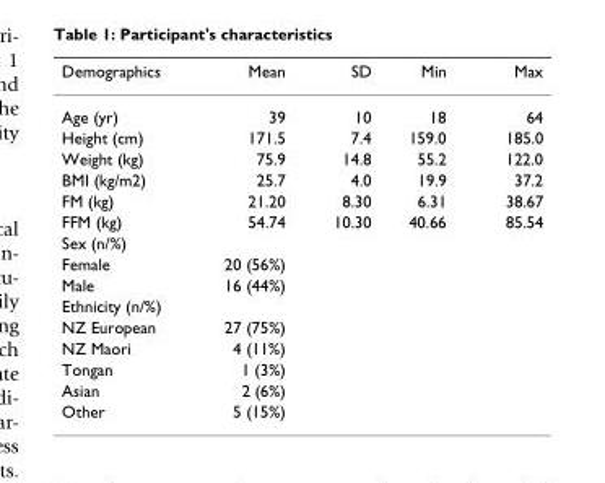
<table><thead><tr><td>Demographics</td><td>Mean</td><td>SD</td><td>Min</td><td>Max</td></tr></thead><tbody><tr><td>Age (yr)</td><td>39</td><td>10</td><td>18</td><td>64</td></tr><tr><td>Height (cm)</td><td>171.5</td><td>7.4</td><td>159.0</td><td>185.0</td></tr><tr><td>Weight (kg)</td><td>75.9</td><td>14.8</td><td>55.2</td><td>122.0</td></tr><tr><td>BMI (kg/m2)</td><td>25.7</td><td>4.0</td><td>19.9</td><td>37.2</td></tr><tr><td>FM (kg)</td><td>21.20</td><td>8.30</td><td>6.31</td><td>38.67</td></tr><tr><td>FFM (kg)</td><td>54.74</td><td>10.30</td><td>40.66</td><td>85.54</td></tr><tr><td colspan="5">Sex (n/%)</td></tr><tr><td>Female</td><td>20 (56%)</td><td></td><td></td><td></td></tr><tr><td>Male</td><td>16 (44%)</td><td></td><td></td><td></td></tr><tr><td colspan="5">Ethnicity (n/%)</td></tr><tr><td>NZ European</td><td>27 (75%)</td><td></td><td></td><td></td></tr><tr><td>NZ Maori</td><td>4 (11%)</td><td></td><td></td><td></td></tr><tr><td>Tongan</td><td>1 (3%)</td><td></td><td></td><td></td></tr><tr><td>Asian</td><td>2 (6%)</td><td></td><td></td><td></td></tr><tr><td>Other</td><td>5 (15%)</td><td></td><td></td><td></td></tr></tbody></table>